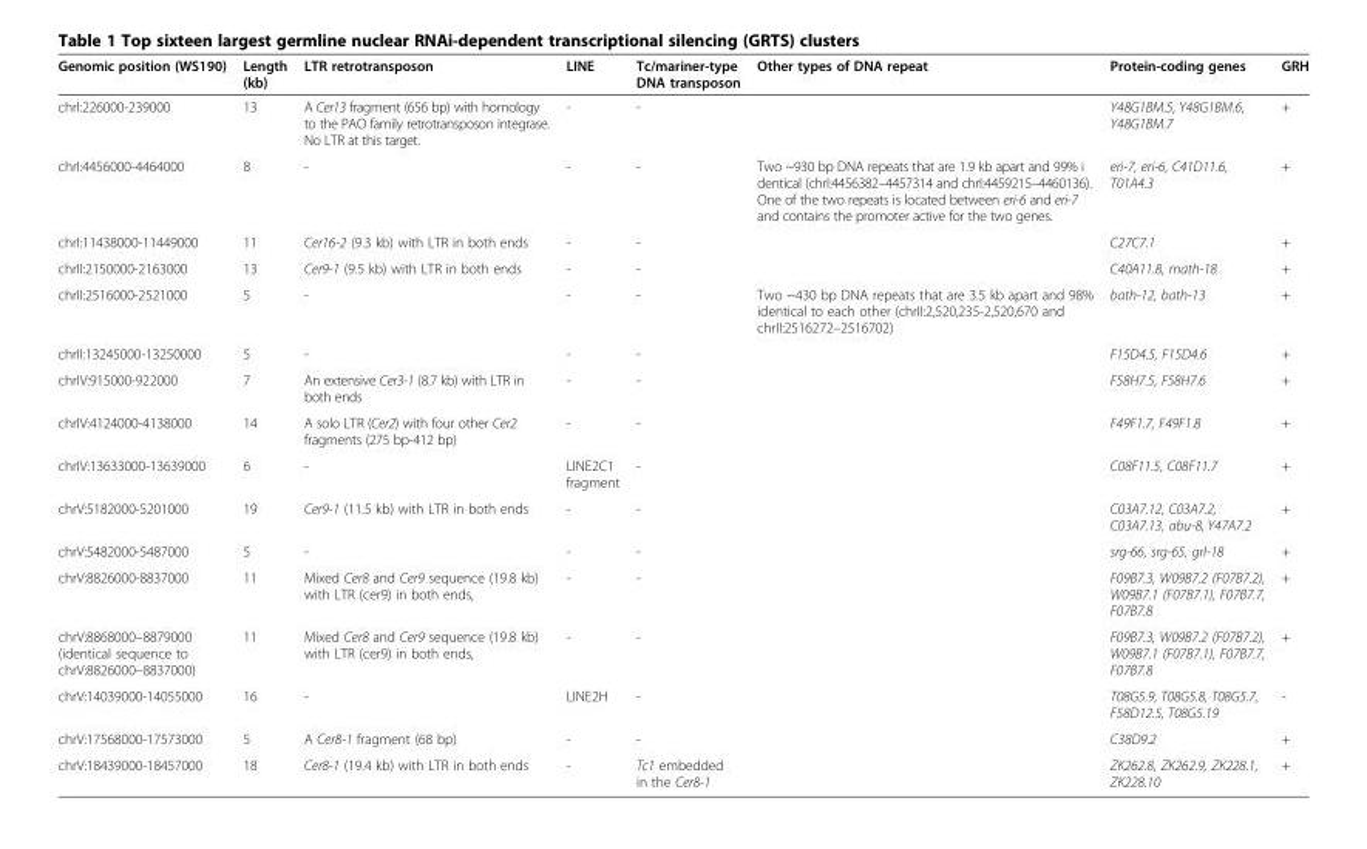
<table><thead><tr><td>Genomic position (WS190)</td><td>Length (kb)</td><td>LTR retrotransposon</td><td>LINE</td><td>Tc/mariner-type DNA transposon</td><td>Other types of DNA repeat</td><td>Protein-coding genes</td><td>GRH</td></tr></thead><tbody><tr><td>chrI:226000-239000</td><td>13</td><td>A Cer13 fragment (656 bp) with homology to the PAO family retrotransposon integrase. No LTR at this target.</td><td>-</td><td>-</td><td></td><td>Y48G1BM.5, Y48G1BM.6, Y48G1BM.7</td><td>+</td></tr><tr><td>chrI:4456000-4464000</td><td>8</td><td>-</td><td>-</td><td>-</td><td>Two ~930 bp DNA repeats that are 1.9 kb apart and 99% i dentical (chrI:4456382–4457314 and chrI:4459215–4460136). One of the two repeats is located between eri-6 and eri-7 and contains the promoter active for the two genes.</td><td>eri-7, eri-6, C41D11.6, T01A4.3</td><td>+</td></tr><tr><td>chrI:11438000-11449000</td><td>11</td><td>Cer16-2 (9.3 kb) with LTR in both ends</td><td>-</td><td>-</td><td></td><td>C27C7.1</td><td>+</td></tr><tr><td>chrII:2150000-2163000</td><td>13</td><td>Cer9-1 (9.5 kb) with LTR in both ends</td><td>-</td><td>-</td><td></td><td>C40A11.8, math-18</td><td>+</td></tr><tr><td>chrII:2516000-2521000</td><td>5</td><td>-</td><td>-</td><td>-</td><td>Two ~430 bp DNA repeats that are 3.5 kb apart and 98% identical to each other (chrII:2,520,235-2,520,670 and chrII:2516272–2516702)</td><td>bath-12, bath-13</td><td>+</td></tr><tr><td>chrII:13245000-13250000</td><td>5</td><td>-</td><td>-</td><td>-</td><td></td><td>F15D4.5, F15D4.6</td><td>+</td></tr><tr><td>chrIV:915000-922000</td><td>7</td><td>An extensive Cer3-1 (8.7 kb) with LTR in both ends</td><td>-</td><td>-</td><td></td><td>F58H7.5, F58H7.6</td><td>+</td></tr><tr><td>chrIV:4124000-4138000</td><td>14</td><td>A solo LTR (Cer2) with four other Cer2 fragments (275 bp-412 bp)</td><td>-</td><td>-</td><td></td><td>F49F1.7, F49F1.8</td><td>+</td></tr><tr><td>chrIV:13633000-13639000</td><td>6</td><td>-</td><td>LINE2C1 fragment</td><td>-</td><td></td><td>C08F11.5, C08F11.7</td><td>+</td></tr><tr><td>chrV:5182000-5201000</td><td>19</td><td>Cer9-1 (11.5 kb) with LTR in both ends</td><td>-</td><td>-</td><td></td><td>C03A7.12, C03A7.2, C03A7.13, abu-8, Y47A7.2</td><td>+</td></tr><tr><td>chrV:5482000-5487000</td><td>5</td><td>-</td><td>-</td><td>-</td><td></td><td>srg-66, srg-65, grl-18</td><td>+</td></tr><tr><td>chrV:8826000-8837000</td><td>11</td><td>Mixed Cer8 and Cer9 sequence (19.8 kb) with LTR (cer9) in both ends,</td><td>-</td><td>-</td><td></td><td>F09B7.3, W09B7.2 (F07B7.2), W09B7.1 (F07B7.1), F07B7.7, F07B7.8</td><td>+</td></tr><tr><td>chrV:8868000–8879000 (identical sequence to chrV:8826000–8837000)</td><td>11</td><td>Mixed Cer8 and Cer9 sequence (19.8 kb) with LTR (cer9) in both ends,</td><td>-</td><td>-</td><td></td><td>F09B7.3, W09B7.2 (F07B7.2), W09B7.1 (F07B7.1), F07B7.7, F07B7.8</td><td>+</td></tr><tr><td>chrV:14039000-14055000</td><td>16</td><td>-</td><td>LINE2H</td><td>-</td><td></td><td>T08G5.9, T08G5.8, T08G5.7, F58D12.5, T08G5.19</td><td>-</td></tr><tr><td>chrV:17568000-17573000</td><td>5</td><td>A Cer8-1 fragment (68 bp)</td><td>-</td><td>-</td><td></td><td>C38D9.2</td><td>+</td></tr><tr><td>chrV:18439000-18457000</td><td>18</td><td>Cer8-1 (19.4 kb) with LTR in both ends</td><td>-</td><td>Tc1 embedded in the Cer8-1</td><td></td><td>ZK262.8, ZK262.9, ZK228.1, ZK228.10</td><td>+</td></tr></tbody></table>